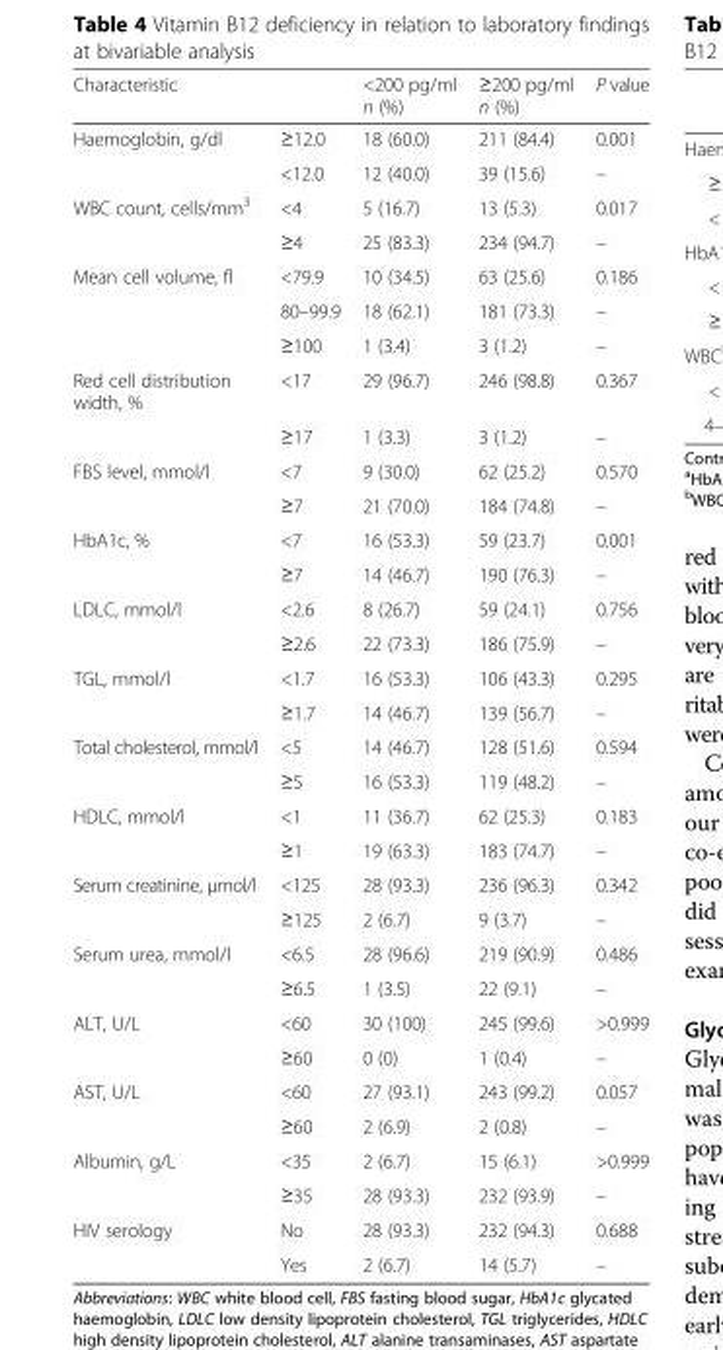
<table><thead><tr><td>Characteristic</td><td></td><td>&lt;200 pg/ml n (%)</td><td>≥200 pg/ml n (%)</td><td>P value</td></tr></thead><tbody><tr><td rowspan="2">Haemoglobin, g/dl</td><td>≥12.0</td><td>18 (60.0)</td><td>211 (84.4)</td><td>0.001</td></tr><tr><td>&lt;12.0</td><td>12 (40.0)</td><td>39 (15.6)</td><td>–</td></tr><tr><td rowspan="2">WBC count, cells/mm<sup>3</sup></td><td>&lt;4</td><td>5 (16.7)</td><td>13 (5.3)</td><td>0.017</td></tr><tr><td>≥4</td><td>25 (83.3)</td><td>234 (94.7)</td><td>–</td></tr><tr><td rowspan="3">Mean cell volume, fl</td><td>&lt;79.9</td><td>10 (34.5)</td><td>63 (25.6)</td><td>0.186</td></tr><tr><td>80–99.9</td><td>18 (62.1)</td><td>181 (73.3)</td><td>–</td></tr><tr><td>≥100</td><td>1 (3.4)</td><td>3 (1.2)</td><td>–</td></tr><tr><td rowspan="2">Red cell distribution width, %</td><td>&lt;17</td><td>29 (96.7)</td><td>246 (98.8)</td><td>0.367</td></tr><tr><td>≥17</td><td>1 (3.3)</td><td>3 (1.2)</td><td>–</td></tr><tr><td rowspan="2">FBS level, mmol/l</td><td>&lt;7</td><td>9 (30.0)</td><td>62 (25.2)</td><td>0.570</td></tr><tr><td>≥7</td><td>21 (70.0)</td><td>184 (74.8)</td><td>–</td></tr><tr><td rowspan="2">HbA1c, %</td><td>&lt;7</td><td>16 (53.3)</td><td>59 (23.7)</td><td>0.001</td></tr><tr><td>≥7</td><td>14 (46.7)</td><td>190 (76.3)</td><td>–</td></tr><tr><td rowspan="2">LDLC, mmol/l</td><td>&lt;2.6</td><td>8 (26.7)</td><td>59 (24.1)</td><td>0.756</td></tr><tr><td>≥2.6</td><td>22 (73.3)</td><td>186 (75.9)</td><td>–</td></tr><tr><td rowspan="2">TGL, mmol/l</td><td>&lt;1.7</td><td>16 (53.3)</td><td>106 (43.3)</td><td>0.295</td></tr><tr><td>≥1.7</td><td>14 (46.7)</td><td>139 (56.7)</td><td>–</td></tr><tr><td rowspan="2">Total cholesterol, mmol/l</td><td>&lt;5</td><td>14 (46.7)</td><td>128 (51.6)</td><td>0.594</td></tr><tr><td>≥5</td><td>16 (53.3)</td><td>119 (48.2)</td><td>–</td></tr><tr><td rowspan="2">HDLC, mmol/l</td><td>&lt;1</td><td>11 (36.7)</td><td>62 (25.3)</td><td>0.183</td></tr><tr><td>≥1</td><td>19 (63.3)</td><td>183 (74.7)</td><td>–</td></tr><tr><td rowspan="2">Serum creatinine, μmol/l</td><td>&lt;125</td><td>28 (93.3)</td><td>236 (96.3)</td><td>0.342</td></tr><tr><td>≥125</td><td>2 (6.7)</td><td>9 (3.7)</td><td>–</td></tr><tr><td rowspan="2">Serum urea, mmol/l</td><td>&lt;6.5</td><td>28 (96.6)</td><td>219 (90.9)</td><td>0.486</td></tr><tr><td>≥6.5</td><td>1 (3.5)</td><td>22 (9.1)</td><td>–</td></tr><tr><td rowspan="2">ALT, U/L</td><td>&lt;60</td><td>30 (100)</td><td>245 (99.6)</td><td>&gt;0.999</td></tr><tr><td>≥60</td><td>0 (0)</td><td>1 (0.4)</td><td>–</td></tr><tr><td rowspan="2">AST, U/L</td><td>&lt;60</td><td>27 (93.1)</td><td>243 (99.2)</td><td>0.057</td></tr><tr><td>≥60</td><td>2 (6.9)</td><td>2 (0.8)</td><td>–</td></tr><tr><td rowspan="2">Albumin, g/L</td><td>&lt;35</td><td>2 (6.7)</td><td>15 (6.1)</td><td>&gt;0.999</td></tr><tr><td>≥35</td><td>28 (93.3)</td><td>232 (93.9)</td><td>–</td></tr><tr><td rowspan="2">HIV serology</td><td>No</td><td>28 (93.3)</td><td>232 (94.3)</td><td>0.688</td></tr><tr><td>Yes</td><td>2 (6.7)</td><td>14 (5.7)</td><td>–</td></tr></tbody></table>